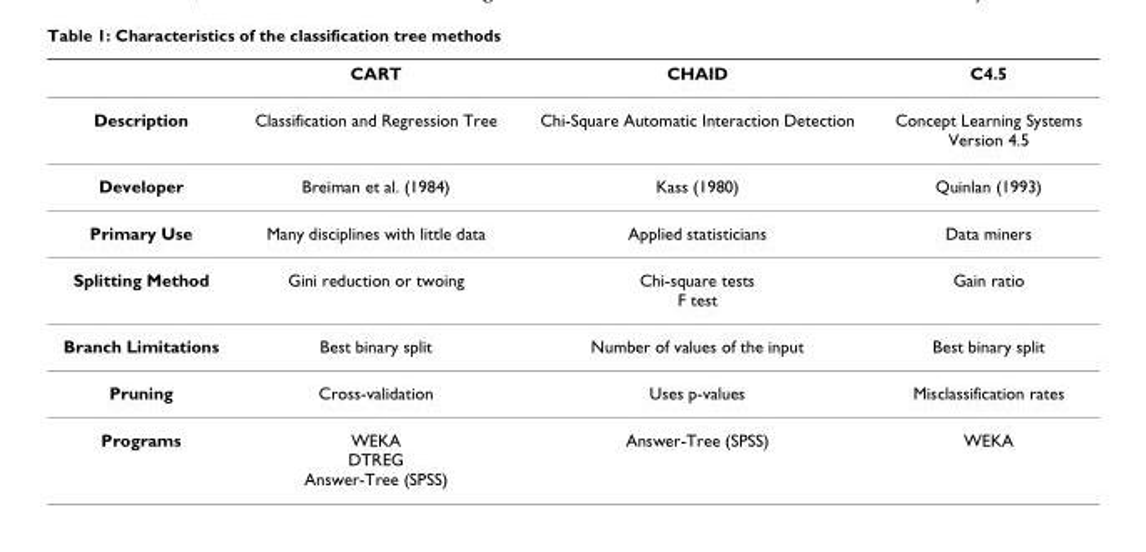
<table><thead><tr><td></td><td>CART</td><td>CHAID</td><td>C4.5</td></tr></thead><tbody><tr><td>Description</td><td>Classification and Regression Tree</td><td>Chi-Square Automatic Interaction Detection</td><td>Concept Learning Systems Version 4.5</td></tr><tr><td>Developer</td><td>Breiman et al. (1984)</td><td>Kass (1980)</td><td>Quinlan (1993)</td></tr><tr><td>Primary Use</td><td>Many disciplines with little data</td><td>Applied statisticians</td><td>Data miners</td></tr><tr><td>Splitting Method</td><td>Gini reduction or twoing</td><td>Chi-square tests F test</td><td>Gain ratio</td></tr><tr><td>Branch Limitations</td><td>Best binary split</td><td>Number of values of the input</td><td>Best binary split</td></tr><tr><td>Pruning</td><td>Cross-validation</td><td>Uses p-values</td><td>Misclassification rates</td></tr><tr><td>Programs</td><td>WEKA DTREG Answer-Tree (SPSS)</td><td>Answer-Tree (SPSS)</td><td>WEKA</td></tr></tbody></table>